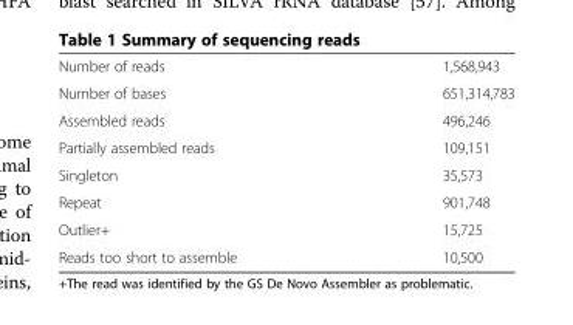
<table><tbody><tr><td>Number of reads</td><td>1,568,943</td></tr><tr><td>Number of bases</td><td>651,314,783</td></tr><tr><td>Assembled reads</td><td>496,246</td></tr><tr><td>Partially assembled reads</td><td>109,151</td></tr><tr><td>Singleton</td><td>35,573</td></tr><tr><td>Repeat</td><td>901,748</td></tr><tr><td>Outlier+</td><td>15,725</td></tr><tr><td>Reads too short to assemble</td><td>10,500</td></tr></tbody></table>